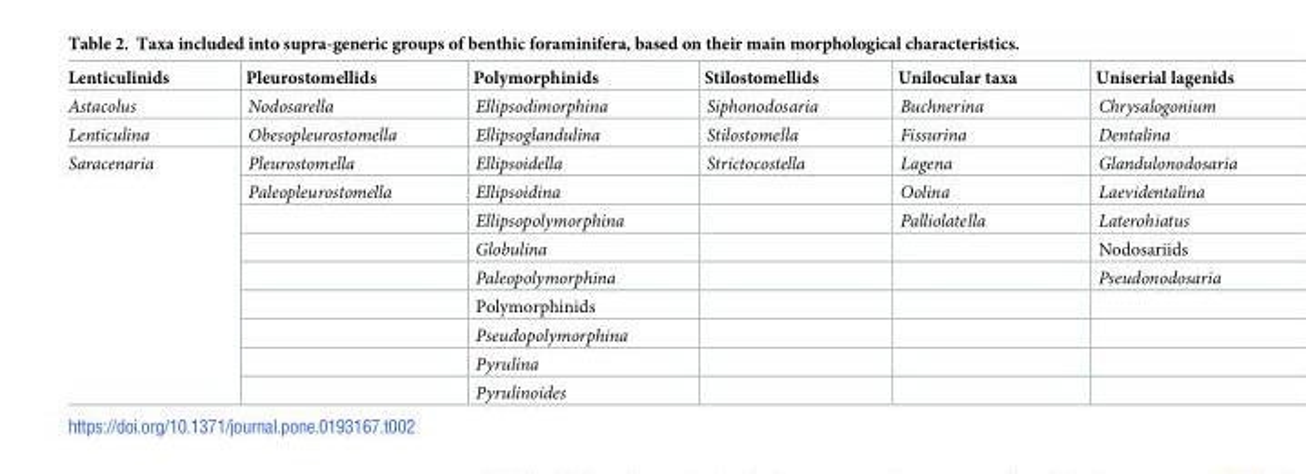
<table><thead><tr><td>Lenticulinids</td><td>Pleurostomellids</td><td>Polymorphinids</td><td>Stilostomellids</td><td>Unilocular taxa</td><td>Uniserial lagenids</td></tr></thead><tbody><tr><td>Astacolus</td><td>Nodosarella</td><td>Ellipsodimorphina</td><td>Siphonodosaria</td><td>Buchnerina</td><td>Chrysalogonium</td></tr><tr><td>Lenticulina</td><td>Obesopleurostomella</td><td>Ellipsoglandulina</td><td>Stilostomella</td><td>Fissurina</td><td>Dentalina</td></tr><tr><td rowspan="9">Saracenaria</td><td>Pleurostomella</td><td>Ellipsoidella</td><td>Strictocostella</td><td>Lagena</td><td>Glandulonodosaria</td></tr><tr><td>Paleopleurostomella</td><td>Ellipsoidina</td><td></td><td>Oolina</td><td>Laevidentalina</td></tr><tr><td></td><td>Ellipsopolymorphina</td><td></td><td>Palliolatella</td><td>Laterohiatus</td></tr><tr><td></td><td>Globulina</td><td></td><td></td><td>Nodosariids</td></tr><tr><td></td><td>Paleopolymorphina</td><td></td><td></td><td>Pseudonodosaria</td></tr><tr><td></td><td>Polymorphinids</td><td></td><td></td><td></td></tr><tr><td></td><td>Pseudopolymorphina</td><td></td><td></td><td></td></tr><tr><td></td><td>Pyrulina</td><td></td><td></td><td></td></tr><tr><td></td><td>Pyrulinoides</td><td></td><td></td><td></td></tr></tbody></table>